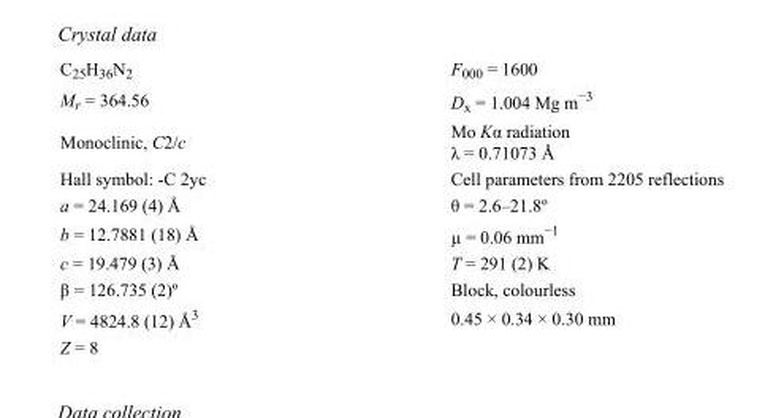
<table><tbody><tr><td>C<sub>25</sub>H<sub>36</sub>N<sub>2</sub></td><td>F<sub>000</sub> = 1600</td></tr><tr><td>M<sub>r</sub> = 364.56</td><td>D<sub>x</sub> = 1.004 Mg m<sup>−3</sup></td></tr><tr><td>Monoclinic, C2/c</td><td>Mo Kα radiation λ = 0.71073 Å</td></tr><tr><td>Hall symbol: -C 2yc</td><td>Cell parameters from 2205 reflections</td></tr><tr><td>a = 24.169 (4) Å</td><td>θ = 2.6–21.8º</td></tr><tr><td>b = 12.7881 (18) Å</td><td>µ = 0.06 mm<sup>−1</sup></td></tr><tr><td>c = 19.479 (3) Å</td><td>T = 291 (2) K</td></tr><tr><td>β = 126.735 (2)º</td><td>Block, colourless</td></tr><tr><td>V = 4824.8 (12) Å<sup>3</sup></td><td>0.45 × 0.34 × 0.30 mm</td></tr><tr><td>Z = 8</td><td></td></tr></tbody></table>